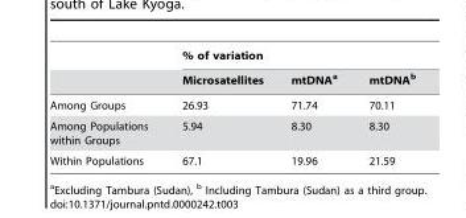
<table><thead><tr><td rowspan="2"></td><td colspan="3">% of variation</td></tr><tr><td>Microsatellites</td><td>mtDNA<sup>a</sup></td><td>mtDNA<sup>b</sup></td></tr></thead><tbody><tr><td>Among Groups</td><td>26.93</td><td>71.74</td><td>70.11</td></tr><tr><td>Among Populations within Groups</td><td>5.94</td><td>8.30</td><td>8.30</td></tr><tr><td>Within Populations</td><td>67.1</td><td>19.96</td><td>21.59</td></tr></tbody></table>